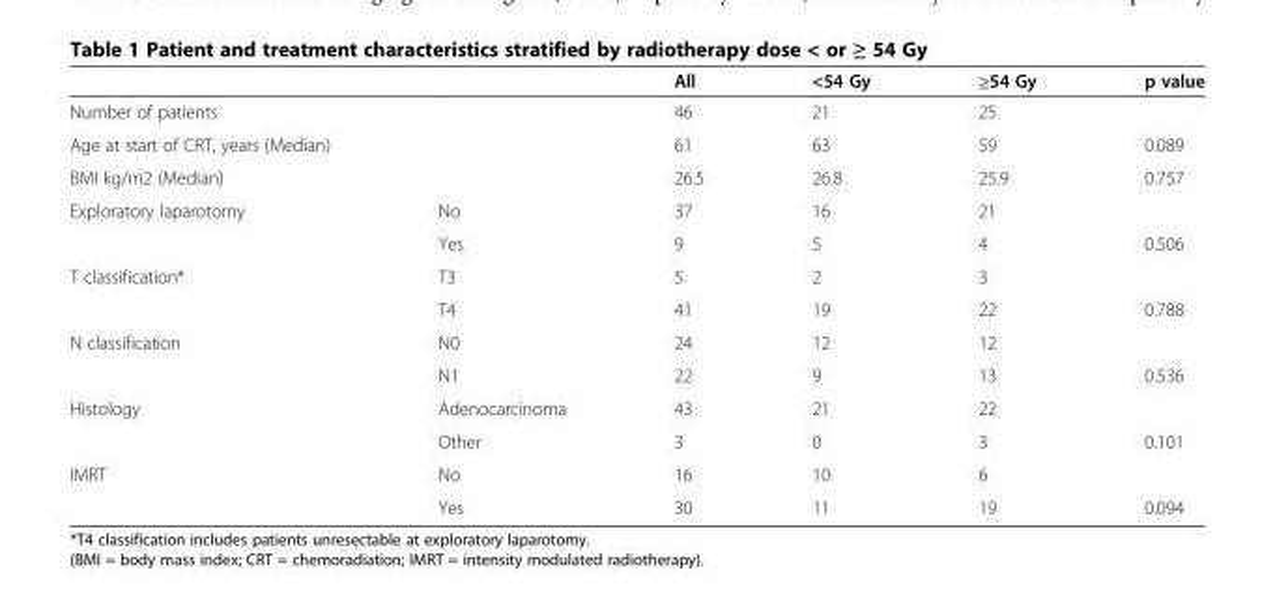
<table><thead><tr><td></td><td></td><td>All</td><td>&lt;54 Gy</td><td>≥54 Gy</td><td>p value</td></tr></thead><tbody><tr><td>Number of patients</td><td></td><td>46</td><td>21</td><td>25</td><td></td></tr><tr><td>Age at start of CRT, years (Median)</td><td></td><td>61</td><td>63</td><td>59</td><td>0.089</td></tr><tr><td>BMI kg/m2 (Median)</td><td></td><td>26.5</td><td>26.8</td><td>25.9</td><td>0.757</td></tr><tr><td rowspan="2">Exploratory laparotomy</td><td>No</td><td>37</td><td>16</td><td>21</td><td></td></tr><tr><td>Yes</td><td>9</td><td>5</td><td>4</td><td>0.506</td></tr><tr><td rowspan="2">T classification*</td><td>T3</td><td>5</td><td>2</td><td>3</td><td></td></tr><tr><td>T4</td><td>41</td><td>19</td><td>22</td><td>0.788</td></tr><tr><td rowspan="2">N classification</td><td>N0</td><td>24</td><td>12</td><td>12</td><td></td></tr><tr><td>N1</td><td>22</td><td>9</td><td>13</td><td>0.536</td></tr><tr><td rowspan="2">Histology</td><td>Adenocarcinoma</td><td>43</td><td>21</td><td>22</td><td></td></tr><tr><td>Other</td><td>3</td><td>0</td><td>3</td><td>0.101</td></tr><tr><td rowspan="2">IMRT</td><td>No</td><td>16</td><td>10</td><td>6</td><td></td></tr><tr><td>Yes</td><td>30</td><td>11</td><td>19</td><td>0.094</td></tr></tbody></table>